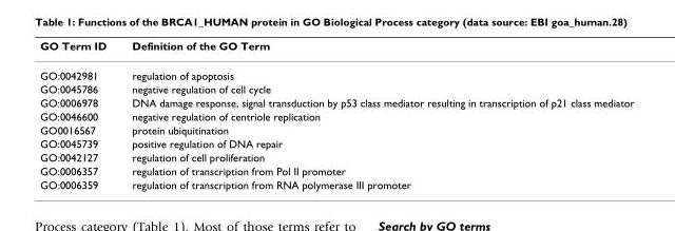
<table><thead><tr><td>GO Term ID</td><td>Definition of the GO Term</td></tr></thead><tbody><tr><td>GO:0042981</td><td>regulation of apoptosis</td></tr><tr><td>GO:0045786</td><td>negative regulation of cell cycle</td></tr><tr><td>GO:0006978</td><td>DNA damage response, signal transduction by p53 class mediator resulting in transcription of p21 class mediator</td></tr><tr><td>GO:0046600</td><td>negative regulation of centriole replication</td></tr><tr><td>GO0016567</td><td>protein ubiquitination</td></tr><tr><td>GO:0045739</td><td>positive regulation of DNA repair</td></tr><tr><td>GO:0042127</td><td>regulation of cell proliferation</td></tr><tr><td>GO:0006357</td><td>regulation of transcription from Pol II promoter</td></tr><tr><td>GO:0006359</td><td>regulation of transcription from RNA polymerase III promoter</td></tr></tbody></table>